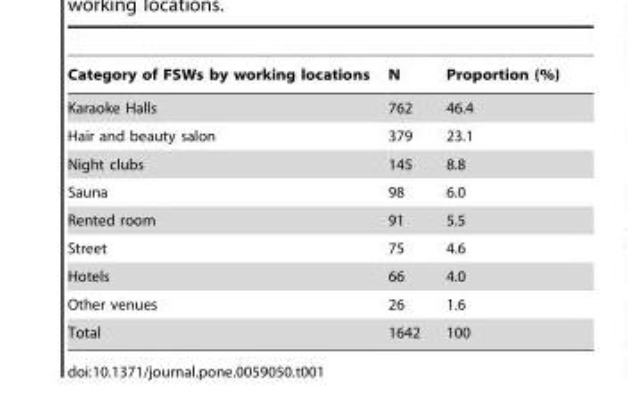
<table><thead><tr><td>Category of FSWs by working locations</td><td>N</td><td>Proportion (%)</td></tr></thead><tbody><tr><td>Karaoke Halls</td><td>762</td><td>46.4</td></tr><tr><td>Hair and beauty salon</td><td>379</td><td>23.1</td></tr><tr><td>Night clubs</td><td>145</td><td>8.8</td></tr><tr><td>Sauna</td><td>98</td><td>6.0</td></tr><tr><td>Rented room</td><td>91</td><td>5.5</td></tr><tr><td>Street</td><td>75</td><td>4.6</td></tr><tr><td>Hotels</td><td>66</td><td>4.0</td></tr><tr><td>Other venues</td><td>26</td><td>1.6</td></tr><tr><td>Total</td><td>1642</td><td>100</td></tr></tbody></table>